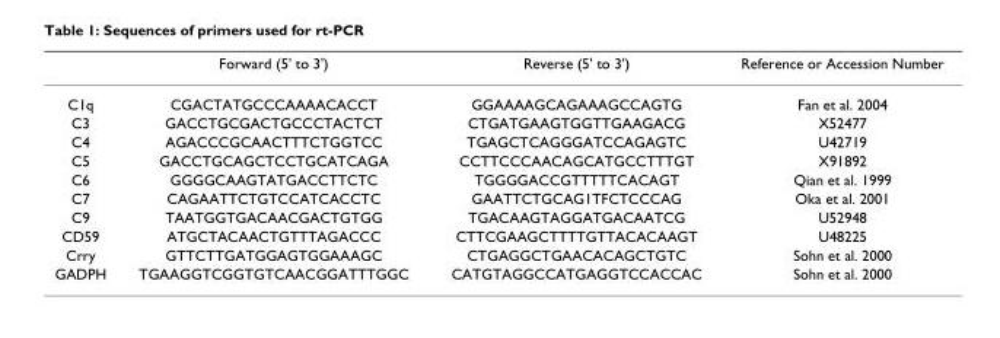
<table><thead><tr><td></td><td>Forward (5&#x27; to 3&#x27;)</td><td>Reverse (5&#x27; to 3&#x27;)</td><td>Reference or Accession Number</td></tr></thead><tbody><tr><td>C1q</td><td>CGACTATGCCCAAAACACCT</td><td>GGAAAAGCAGAAAGCCAGTG</td><td>Fan et al. 2004</td></tr><tr><td>C3</td><td>GACCTGCGACTGCCCTACTCT</td><td>CTGATGAAGTGGTTGAAGACG</td><td>X52477</td></tr><tr><td>C4</td><td>AGACCCGCAACTTTCTGGTCC</td><td>TGAGCTCAGGGATCCAGAGTC</td><td>U42719</td></tr><tr><td>C5</td><td>GACCTGCAGCTCCTGCATCAGA</td><td>CCTTCCCAACAGCATGCCTTTGT</td><td>X91892</td></tr><tr><td>C6</td><td>GGGGCAAGTATGACCTTCTC</td><td>TGGGGACCGTTTTTCACAGT</td><td>Qian et al. 1999</td></tr><tr><td>C7</td><td>CAGAATTCTGTCCATCACCTC</td><td>GAATTCTGCAG1TFCTCCCAG</td><td>Oka et al. 2001</td></tr><tr><td>C9</td><td>TAATGGTGACAACGACTGTGG</td><td>TGACAAGTAGGATGACAATCG</td><td>U52948</td></tr><tr><td>CD59</td><td>ATGCTACAACTGTTTAGACCC</td><td>CTTCGAAGCTTTTGTTACACAAGT</td><td>U48225</td></tr><tr><td>Crry</td><td>GTTCTTGATGGAGTGGAAAGC</td><td>CTGAGGCTGAACACAGCTGTC</td><td>Sohn et al. 2000</td></tr><tr><td>GADPH</td><td>TGAAGGTCGGTGTCAACGGATTTGGC</td><td>CATGTAGGCCATGAGGTCCACCAC</td><td>Sohn et al. 2000</td></tr></tbody></table>